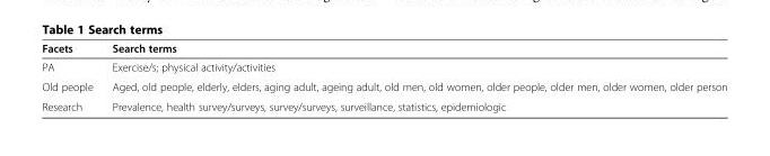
<table><thead><tr><td>Facets</td><td>Search terms</td></tr></thead><tbody><tr><td>PA</td><td>Exercise/s; physical activity/activities</td></tr><tr><td>Old people</td><td>Aged, old people, elderly, elders, aging adult, ageing adult, old men, old women, older people, older men, older women, older person</td></tr><tr><td>Research</td><td>Prevalence, health survey/surveys, survey/surveys, surveillance, statistics, epidemiologic</td></tr></tbody></table>